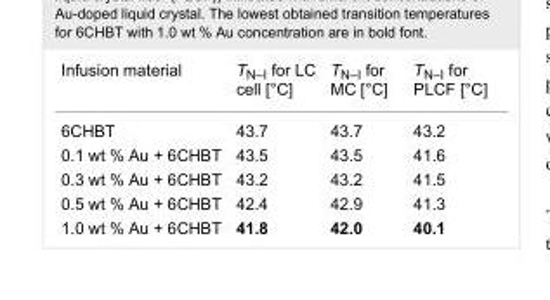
<table><tbody><tr><td>Infusion material</td><td>T<sub>N–I</sub> for LC cell [°C]</td><td>T<sub>N–I</sub> for MC [°C]</td><td>T<sub>N–I</sub> for PLCF [°C]</td></tr><tr><td>6CHBT</td><td>43.7</td><td>43.7</td><td>43.2</td></tr><tr><td>0.1 wt % Au + 6CHBT</td><td>43.5</td><td>43.5</td><td>41.6</td></tr><tr><td>0.3 wt % Au + 6CHBT</td><td>43.2</td><td>43.2</td><td>41.5</td></tr><tr><td>0.5 wt % Au + 6CHBT</td><td>42.4</td><td>42.9</td><td>41.3</td></tr><tr><td>1.0 wt % Au + 6CHBT</td><td>41.8</td><td>42.0</td><td>40.1</td></tr></tbody></table>